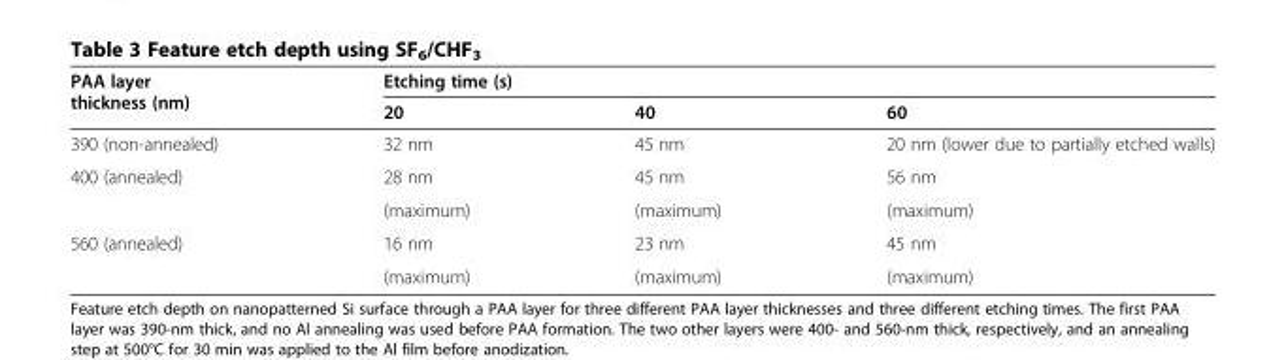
<table><thead><tr><td rowspan="2">PAA layer thickness (nm)</td><td colspan="3">Etching time (s)</td></tr><tr><td>20</td><td>40</td><td>60</td></tr></thead><tbody><tr><td>390 (non-annealed)</td><td>32 nm</td><td>45 nm</td><td>20 nm (lower due to partially etched walls)</td></tr><tr><td rowspan="2">400 (annealed)</td><td>28 nm</td><td>45 nm</td><td>56 nm</td></tr><tr><td>(maximum)</td><td>(maximum)</td><td>(maximum)</td></tr><tr><td rowspan="2">560 (annealed)</td><td>16 nm</td><td>23 nm</td><td>45 nm</td></tr><tr><td>(maximum)</td><td>(maximum)</td><td>(maximum)</td></tr></tbody></table>